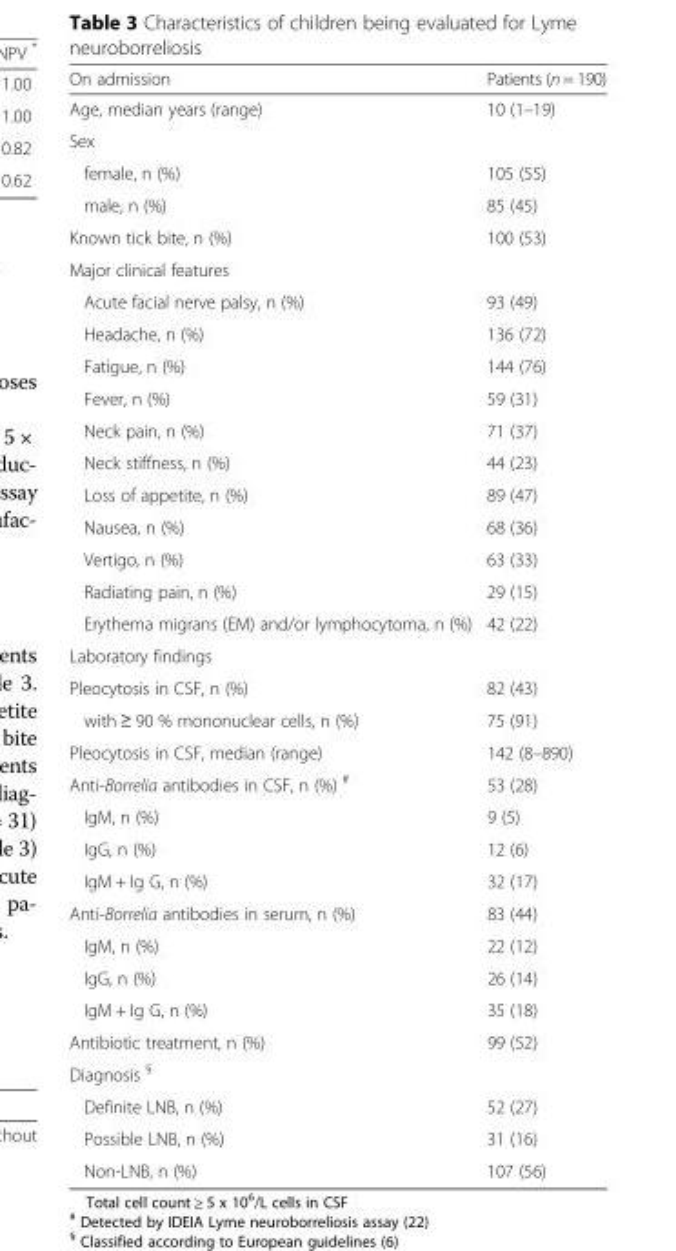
<table><thead><tr><td>On admission</td><td>Patients (n = 190)</td></tr></thead><tbody><tr><td>Age, median years (range)</td><td>10 (1–19)</td></tr><tr><td colspan="2">Sex</td></tr><tr><td>female, n (%)</td><td>105 (55)</td></tr><tr><td>male, n (%)</td><td>85 (45)</td></tr><tr><td>Known tick bite, n (%)</td><td>100 (53)</td></tr><tr><td colspan="2">Major clinical features</td></tr><tr><td>Acute facial nerve palsy, n (%)</td><td>93 (49)</td></tr><tr><td>Headache, n (%)</td><td>136 (72)</td></tr><tr><td>Fatigue, n (%)</td><td>144 (76)</td></tr><tr><td>Fever, n (%)</td><td>59 (31)</td></tr><tr><td>Neck pain, n (%)</td><td>71 (37)</td></tr><tr><td>Neck stiffness, n (%)</td><td>44 (23)</td></tr><tr><td>Loss of appetite, n (%)</td><td>89 (47)</td></tr><tr><td>Nausea, n (%)</td><td>68 (36)</td></tr><tr><td>Vertigo, n (%)</td><td>63 (33)</td></tr><tr><td>Radiating pain, n (%)</td><td>29 (15)</td></tr><tr><td>Erythema migrans (EM) and/or lymphocytoma, n (%)</td><td>42 (22)</td></tr><tr><td colspan="2">Laboratory findings</td></tr><tr><td>Pleocytosis in CSF, n (%)</td><td>82 (43)</td></tr><tr><td>with ≥ 90 % mononuclear cells, n (%)</td><td>75 (91)</td></tr><tr><td>Pleocytosis in CSF, median (range)</td><td>142 (8–890)</td></tr><tr><td>Anti-Borrelia antibodies in CSF, n (%) <sup>#</sup></td><td>53 (28)</td></tr><tr><td>IgM, n (%)</td><td>9 (5)</td></tr><tr><td>IgG, n (%)</td><td>12 (6)</td></tr><tr><td>IgM + Ig G, n (%)</td><td>32 (17)</td></tr><tr><td>Anti-Borrelia antibodies in serum, n (%)</td><td>83 (44)</td></tr><tr><td>IgM, n (%)</td><td>22 (12)</td></tr><tr><td>IgG, n (%)</td><td>26 (14)</td></tr><tr><td>IgM + Ig G, n (%)</td><td>35 (18)</td></tr><tr><td>Antibiotic treatment, n (%)</td><td>99 (52)</td></tr><tr><td colspan="2">Diagnosis <sup>§</sup></td></tr><tr><td>Definite LNB, n (%)</td><td>52 (27)</td></tr><tr><td>Possible LNB, n (%)</td><td>31 (16)</td></tr><tr><td>Non-LNB, n (%)</td><td>107 (56)</td></tr></tbody></table>